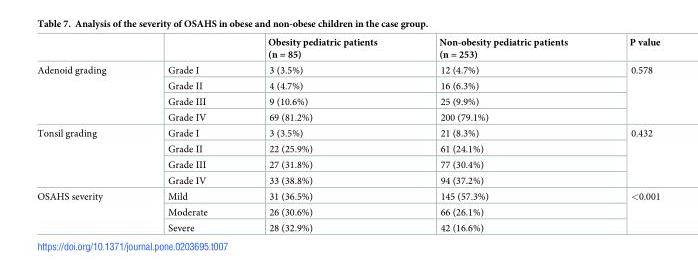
<table><thead><tr><td></td><td></td><td>Obesity pediatric patients (n = 85)</td><td>Non-obesity pediatric patients (n = 253)</td><td>P value</td></tr></thead><tbody><tr><td rowspan="4">Adenoid grading</td><td>Grade I</td><td>3 (3.5%)</td><td>12 (4.7%)</td><td rowspan="4">0.578</td></tr><tr><td>Grade II</td><td>4 (4.7%)</td><td>16 (6.3%)</td></tr><tr><td>Grade III</td><td>9 (10.6%)</td><td>25 (9.9%)</td></tr><tr><td>Grade IV</td><td>69 (81.2%)</td><td>200 (79.1%)</td></tr><tr><td rowspan="4">Tonsil grading</td><td>Grade I</td><td>3 (3.5%)</td><td>21 (8.3%)</td><td rowspan="4">0.432</td></tr><tr><td>Grade II</td><td>22 (25.9%)</td><td>61 (24.1%)</td></tr><tr><td>Grade III</td><td>27 (31.8%)</td><td>77 (30.4%)</td></tr><tr><td>Grade IV</td><td>33 (38.8%)</td><td>94 (37.2%)</td></tr><tr><td rowspan="3">OSAHS severity</td><td>Mild</td><td>31 (36.5%)</td><td>145 (57.3%)</td><td rowspan="3">&lt;0.001</td></tr><tr><td>Moderate</td><td>26 (30.6%)</td><td>66 (26.1%)</td></tr><tr><td>Severe</td><td>28 (32.9%)</td><td>42 (16.6%)</td></tr></tbody></table>